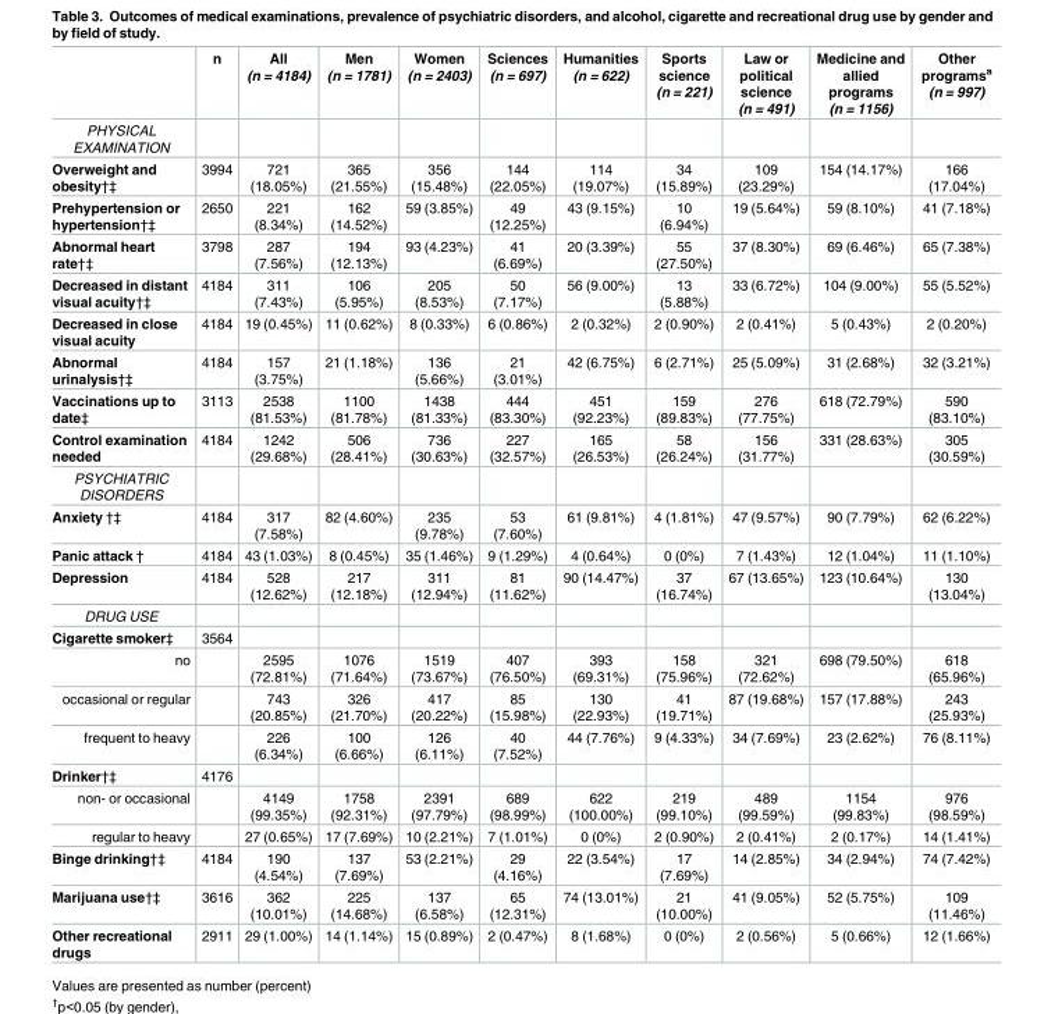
<table><thead><tr><td></td><td>n</td><td>All (n = 4184)</td><td>Men (n = 1781)</td><td>Women (n = 2403)</td><td>Sciences (n = 697)</td><td>Humanities (n = 622)</td><td>Sports science (n = 221)</td><td>Law or political science (n = 491)</td><td>Medicine and allied programs (n = 1156)</td><td>Other programs<sup>a</sup> (n = 997)</td></tr></thead><tbody><tr><td colspan="11">PHYSICAL EXAMINATION</td></tr><tr><td>Overweight and obesity†‡</td><td>3994</td><td>721 (18.05%)</td><td>365 (21.55%)</td><td>356 (15.48%)</td><td>144 (22.05%)</td><td>114 (19.07%)</td><td>34 (15.89%)</td><td>109 (23.29%)</td><td>154 (14.17%)</td><td>166 (17.04%)</td></tr><tr><td>Prehypertension or hypertension†‡</td><td>2650</td><td>221 (8.34%)</td><td>162 (14.52%)</td><td>59 (3.85%)</td><td>49 (12.25%)</td><td>43 (9.15%)</td><td>10 (6.94%)</td><td>19 (5.64%)</td><td>59 (8.10%)</td><td>41 (7.18%)</td></tr><tr><td>Abnormal heart rate†‡</td><td>3798</td><td>287 (7.56%)</td><td>194 (12.13%)</td><td>93 (4.23%)</td><td>41 (6.69%)</td><td>20 (3.39%)</td><td>55 (27.50%)</td><td>37 (8.30%)</td><td>69 (6.46%)</td><td>65 (7.38%)</td></tr><tr><td>Decreased in distant visual acuity†‡</td><td>4184</td><td>311 (7.43%)</td><td>106 (5.95%)</td><td>205 (8.53%)</td><td>50 (7.17%)</td><td>56 (9.00%)</td><td>13 (5.88%)</td><td>33 (6.72%)</td><td>104 (9.00%)</td><td>55 (5.52%)</td></tr><tr><td>Decreased in close visual acuity</td><td>4184</td><td>19 (0.45%)</td><td>11 (0.62%)</td><td>8 (0.33%)</td><td>6 (0.86%)</td><td>2 (0.32%)</td><td>2 (0.90%)</td><td>2 (0.41%)</td><td>5 (0.43%)</td><td>2 (0.20%)</td></tr><tr><td>Abnormal urinalysis†‡</td><td>4184</td><td>157 (3.75%)</td><td>21 (1.18%)</td><td>136 (5.66%)</td><td>21 (3.01%)</td><td>42 (6.75%)</td><td>6 (2.71%)</td><td>25 (5.09%)</td><td>31 (2.68%)</td><td>32 (3.21%)</td></tr><tr><td>Vaccinations up to date‡</td><td>3113</td><td>2538 (81.53%)</td><td>1100 (81.78%)</td><td>1438 (81.33%)</td><td>444 (83.30%)</td><td>451 (92.23%)</td><td>159 (89.83%)</td><td>276 (77.75%)</td><td>618 (72.79%)</td><td>590 (83.10%)</td></tr><tr><td>Control examination needed</td><td>4184</td><td>1242 (29.68%)</td><td>506 (28.41%)</td><td>736 (30.63%)</td><td>227 (32.57%)</td><td>165 (26.53%)</td><td>58 (26.24%)</td><td>156 (31.77%)</td><td>331 (28.63%)</td><td>305 (30.59%)</td></tr><tr><td colspan="11">PSYCHIATRIC DISORDERS</td></tr><tr><td>Anxiety †‡</td><td>4184</td><td>317 (7.58%)</td><td>82 (4.60%)</td><td>235 (9.78%)</td><td>53 (7.60%)</td><td>61 (9.81%)</td><td>4 (1.81%)</td><td>47 (9.57%)</td><td>90 (7.79%)</td><td>62 (6.22%)</td></tr><tr><td>Panic attack †</td><td>4184</td><td>43 (1.03%)</td><td>8 (0.45%)</td><td>35 (1.46%)</td><td>9 (1.29%)</td><td>4 (0.64%)</td><td>0 (0%)</td><td>7 (1.43%)</td><td>12 (1.04%)</td><td>11 (1.10%)</td></tr><tr><td>Depression</td><td>4184</td><td>528 (12.62%)</td><td>217 (12.18%)</td><td>311 (12.94%)</td><td>81 (11.62%)</td><td>90 (14.47%)</td><td>37 (16.74%)</td><td>67 (13.65%)</td><td>123 (10.64%)</td><td>130 (13.04%)</td></tr><tr><td colspan="11">DRUG USE</td></tr><tr><td>Cigarette smoker‡</td><td>3564</td><td></td><td></td><td></td><td></td><td></td><td></td><td></td><td></td><td></td></tr><tr><td>no</td><td></td><td>2595 (72.81%)</td><td>1076 (71.64%)</td><td>1519 (73.67%)</td><td>407 (76.50%)</td><td>393 (69.31%)</td><td>158 (75.96%)</td><td>321 (72.62%)</td><td>698 (79.50%)</td><td>618 (65.96%)</td></tr><tr><td>occasional or regular</td><td></td><td>743 (20.85%)</td><td>326 (21.70%)</td><td>417 (20.22%)</td><td>85 (15.98%)</td><td>130 (22.93%)</td><td>41 (19.71%)</td><td>87 (19.68%)</td><td>157 (17.88%)</td><td>243 (25.93%)</td></tr><tr><td>frequent to heavy</td><td></td><td>226 (6.34%)</td><td>100 (6.66%)</td><td>126 (6.11%)</td><td>40 (7.52%)</td><td>44 (7.76%)</td><td>9 (4.33%)</td><td>34 (7.69%)</td><td>23 (2.62%)</td><td>76 (8.11%)</td></tr><tr><td>Drinker†‡</td><td>4176</td><td></td><td></td><td></td><td></td><td></td><td></td><td></td><td></td><td></td></tr><tr><td>non- or occasional</td><td></td><td>4149 (99.35%)</td><td>1758 (92.31%)</td><td>2391 (97.79%)</td><td>689 (98.99%)</td><td>622 (100.00%)</td><td>219 (99.10%)</td><td>489 (99.59%)</td><td>1154 (99.83%)</td><td>976 (98.59%)</td></tr><tr><td>regular to heavy</td><td></td><td>27 (0.65%)</td><td>17 (7.69%)</td><td>10 (2.21%)</td><td>7 (1.01%)</td><td>0 (0%)</td><td>2 (0.90%)</td><td>2 (0.41%)</td><td>2 (0.17%)</td><td>14 (1.41%)</td></tr><tr><td>Binge drinking†‡</td><td>4184</td><td>190 (4.54%)</td><td>137 (7.69%)</td><td>53 (2.21%)</td><td>29 (4.16%)</td><td>22 (3.54%)</td><td>17 (7.69%)</td><td>14 (2.85%)</td><td>34 (2.94%)</td><td>74 (7.42%)</td></tr><tr><td>Marijuana use†‡</td><td>3616</td><td>362 (10.01%)</td><td>225 (14.68%)</td><td>137 (6.58%)</td><td>65 (12.31%)</td><td>74 (13.01%)</td><td>21 (10.00%)</td><td>41 (9.05%)</td><td>52 (5.75%)</td><td>109 (11.46%)</td></tr><tr><td>Other recreational drugs</td><td>2911</td><td>29 (1.00%)</td><td>14 (1.14%)</td><td>15 (0.89%)</td><td>2 (0.47%)</td><td>8 (1.68%)</td><td>0 (0%)</td><td>2 (0.56%)</td><td>5 (0.66%)</td><td>12 (1.66%)</td></tr></tbody></table>